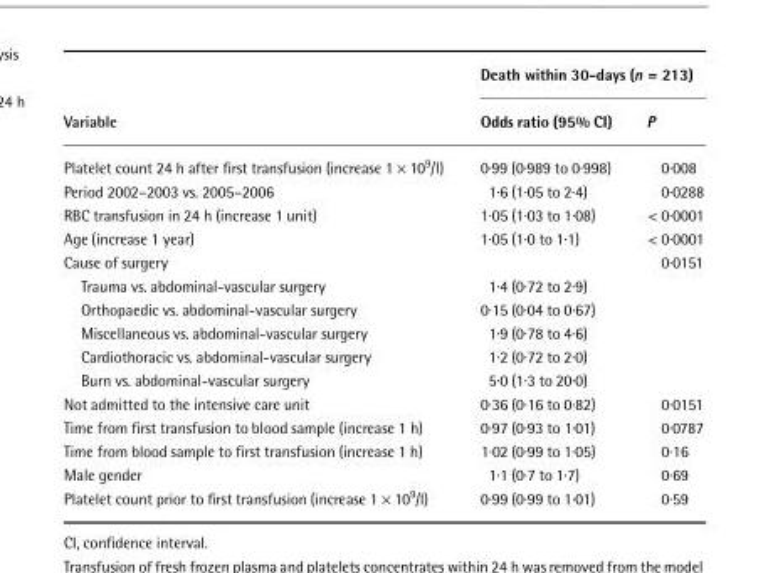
<table><thead><tr><td rowspan="2">Variable</td><td colspan="2">Death within 30-days (n = 213)</td></tr><tr><td>Odds ratio (95% CI)</td><td>P</td></tr></thead><tbody><tr><td>Platelet count 24 h after first transfusion (increase 1 × 10<sup>9</sup>/l)</td><td>0·99 (0·989 to 0·998)</td><td>0·008</td></tr><tr><td>Period 2002–2003 vs. 2005–2006</td><td>1·6 (1·05 to 2·4)</td><td>0·0288</td></tr><tr><td>RBC transfusion in 24 h (increase 1 unit)</td><td>1·05 (1·03 to 1·08)</td><td>&lt; 0·0001</td></tr><tr><td>Age (increase 1 year)</td><td>1·05 (1·0 to 1·1)</td><td>&lt; 0·0001</td></tr><tr><td>Cause of surgery</td><td></td><td>0·0151</td></tr><tr><td>Trauma vs. abdominal-vascular surgery</td><td>1·4 (0·72 to 2·9)</td><td></td></tr><tr><td>Orthopaedic vs. abdominal-vascular surgery</td><td>0·15 (0·04 to 0·67)</td><td></td></tr><tr><td>Miscellaneous vs. abdominal-vascular surgery</td><td>1·9 (0·78 to 4·6)</td><td></td></tr><tr><td>Cardiothoracic vs. abdominal-vascular surgery</td><td>1·2 (0·72 to 2·0)</td><td></td></tr><tr><td>Burn vs. abdominal-vascular surgery</td><td>5·0 (1·3 to 20·0)</td><td></td></tr><tr><td>Not admitted to the intensive care unit</td><td>0·36 (0·16 to 0·82)</td><td>0·0151</td></tr><tr><td>Time from first transfusion to blood sample (increase 1 h)</td><td>0·97 (0·93 to 1·01)</td><td>0·0787</td></tr><tr><td>Time from blood sample to first transfusion (increase 1 h)</td><td>1·02 (0·99 to 1·05)</td><td>0·16</td></tr><tr><td>Male gender</td><td>1·1 (0·7 to 1·7)</td><td>0·69</td></tr><tr><td>Platelet count prior to first transfusion (increase 1 × 10<sup>9</sup>/l)</td><td>0·99 (0·99 to 1·01)</td><td>0·59</td></tr></tbody></table>